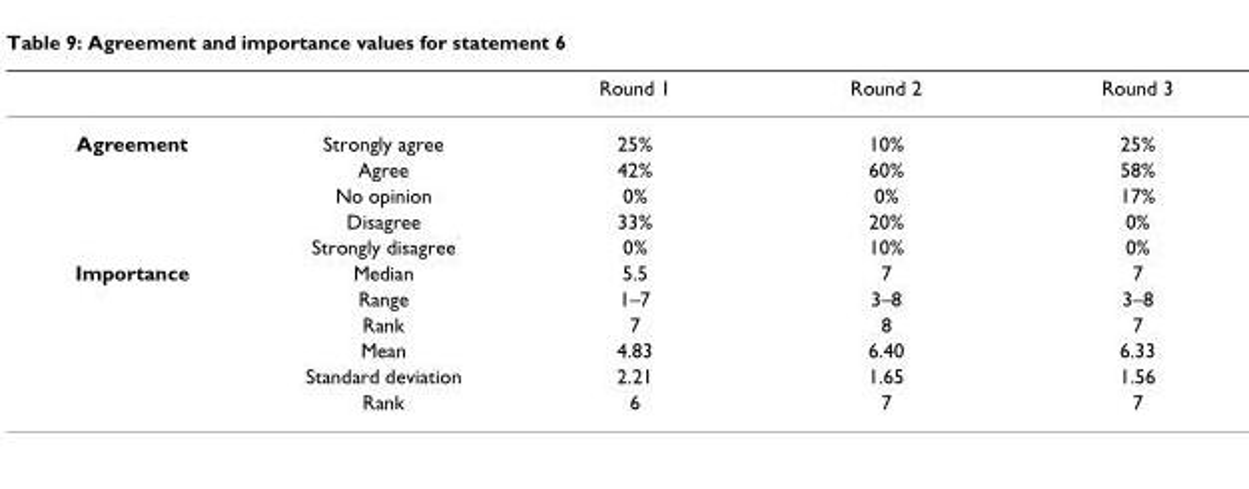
<table><thead><tr><td></td><td></td><td>Round 1</td><td>Round 2</td><td>Round 3</td></tr></thead><tbody><tr><td rowspan="5">Agreement</td><td>Strongly agree</td><td>25%</td><td>10%</td><td>25%</td></tr><tr><td>Agree</td><td>42%</td><td>60%</td><td>58%</td></tr><tr><td>No opinion</td><td>0%</td><td>0%</td><td>17%</td></tr><tr><td>Disagree</td><td>33%</td><td>20%</td><td>0%</td></tr><tr><td>Strongly disagree</td><td>0%</td><td>10%</td><td>0%</td></tr><tr><td rowspan="6">Importance</td><td>Median</td><td>5.5</td><td>7</td><td>7</td></tr><tr><td>Range</td><td>1–7</td><td>3–8</td><td>3–8</td></tr><tr><td>Rank</td><td>7</td><td>8</td><td>7</td></tr><tr><td>Mean</td><td>4.83</td><td>6.40</td><td>6.33</td></tr><tr><td>Standard deviation</td><td>2.21</td><td>1.65</td><td>1.56</td></tr><tr><td>Rank</td><td>6</td><td>7</td><td>7</td></tr></tbody></table>